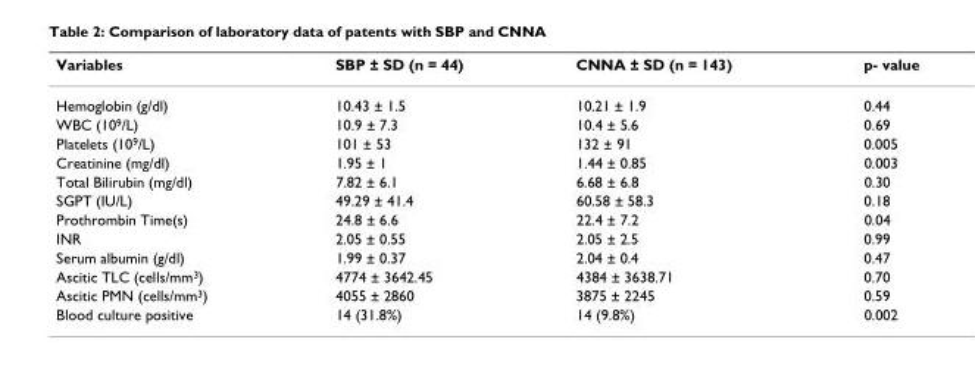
<table><thead><tr><td>Variables</td><td>SBP ± SD (n = 44)</td><td>CNNA ± SD (n = 143)</td><td>p- value</td></tr></thead><tbody><tr><td>Hemoglobin (g/dl)</td><td>10.43 ± 1.5</td><td>10.21 ± 1.9</td><td>0.44</td></tr><tr><td>WBC (10<sup>9</sup>/L)</td><td>10.9 ± 7.3</td><td>10.4 ± 5.6</td><td>0.69</td></tr><tr><td>Platelets (10<sup>9</sup>/L)</td><td>101 ± 53</td><td>132 ± 91</td><td>0.005</td></tr><tr><td>Creatinine (mg/dl)</td><td>1.95 ± 1</td><td>1.44 ± 0.85</td><td>0.003</td></tr><tr><td>Total Bilirubin (mg/dl)</td><td>7.82 ± 6.1</td><td>6.68 ± 6.8</td><td>0.30</td></tr><tr><td>SGPT (IU/L)</td><td>49.29 ± 41.4</td><td>60.58 ± 58.3</td><td>0.18</td></tr><tr><td>Prothrombin Time(s)</td><td>24.8 ± 6.6</td><td>22.4 ± 7.2</td><td>0.04</td></tr><tr><td>INR</td><td>2.05 ± 0.55</td><td>2.05 ± 2.5</td><td>0.99</td></tr><tr><td>Serum albumin (g/dl)</td><td>1.99 ± 0.37</td><td>2.04 ± 0.4</td><td>0.47</td></tr><tr><td>Ascitic TLC (cells/mm<sup>3</sup>)</td><td>4774 ± 3642.45</td><td>4384 ± 3638.71</td><td>0.70</td></tr><tr><td>Ascitic PMN (cells/mm<sup>3</sup>)</td><td>4055 ± 2860</td><td>3875 ± 2245</td><td>0.59</td></tr><tr><td>Blood culture positive</td><td>14 (31.8%)</td><td>14 (9.8%)</td><td>0.002</td></tr></tbody></table>